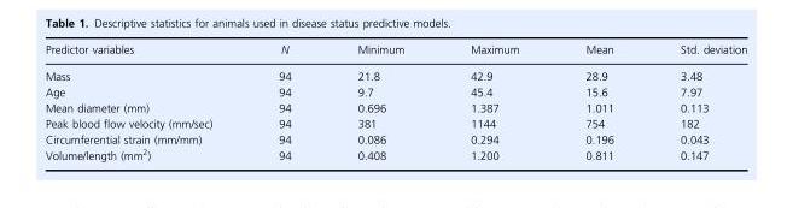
<table><thead><tr><td>Predictor variables</td><td>N</td><td>Minimum</td><td>Maximum</td><td>Mean</td><td>Std. deviation</td></tr></thead><tbody><tr><td>Mass</td><td>94</td><td>21.8</td><td>42.9</td><td>28.9</td><td>3.48</td></tr><tr><td>Age</td><td>94</td><td>9.7</td><td>45.4</td><td>15.6</td><td>7.97</td></tr><tr><td>Mean diameter (mm)</td><td>94</td><td>0.696</td><td>1.387</td><td>1.011</td><td>0.113</td></tr><tr><td>Peak blood flow velocity (mm/sec)</td><td>94</td><td>381</td><td>1144</td><td>754</td><td>182</td></tr><tr><td>Circumferential strain (mm/mm)</td><td>94</td><td>0.086</td><td>0.294</td><td>0.196</td><td>0.043</td></tr><tr><td>Volume/length (mm<sup>2</sup>)</td><td>94</td><td>0.408</td><td>1.200</td><td>0.811</td><td>0.147</td></tr></tbody></table>